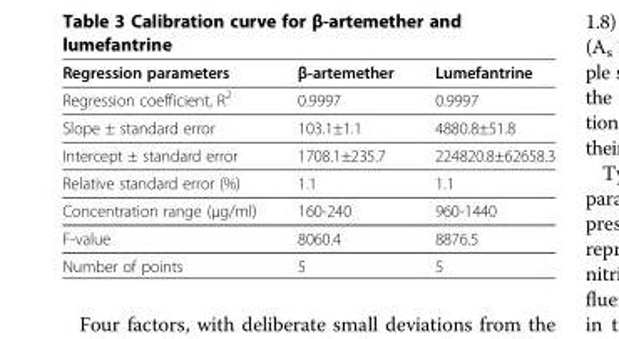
<table><thead><tr><td>Regression parameters</td><td>β-artemether</td><td>Lumefantrine</td></tr></thead><tbody><tr><td>Regression coefficient, R<sup>2</sup></td><td>0.9997</td><td>0.9997</td></tr><tr><td>Slope ± standard error</td><td>103.1±1.1</td><td>4880.8±51.8</td></tr><tr><td>Intercept ± standard error</td><td>1708.1±235.7</td><td>224820.8±62658.3</td></tr><tr><td>Relative standard error (%)</td><td>1.1</td><td>1.1</td></tr><tr><td>Concentration range (μg/ml)</td><td>160-240</td><td>960-1440</td></tr><tr><td>F-value</td><td>8060.4</td><td>8876.5</td></tr><tr><td>Number of points</td><td>5</td><td>5</td></tr></tbody></table>